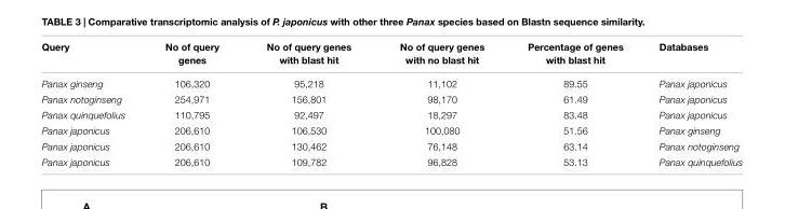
<table><thead><tr><td>Query</td><td>No of query genes</td><td>No of query genes with blast hit</td><td>No of query genes with no blast hit</td><td>Percentage of genes with blast hit</td><td>Databases</td></tr></thead><tbody><tr><td>Panax ginseng</td><td>106,320</td><td>95,218</td><td>11,102</td><td>89.55</td><td>Panax japonicus</td></tr><tr><td>Panax notoginseng</td><td>254,971</td><td>156,801</td><td>98,170</td><td>61.49</td><td>Panax japonicus</td></tr><tr><td>Panax quinquefolius</td><td>110,795</td><td>92,497</td><td>18,297</td><td>83.48</td><td>Panax japonicus</td></tr><tr><td>Panax japonicus</td><td>206,610</td><td>106,530</td><td>100,080</td><td>51.56</td><td>Panax ginseng</td></tr><tr><td>Panax japonicus</td><td>206,610</td><td>130,462</td><td>76,148</td><td>63.14</td><td>Panax notoginseng</td></tr><tr><td>Panax japonicus</td><td>206,610</td><td>109,782</td><td>96,828</td><td>53.13</td><td>Panax quinquefolius</td></tr></tbody></table>